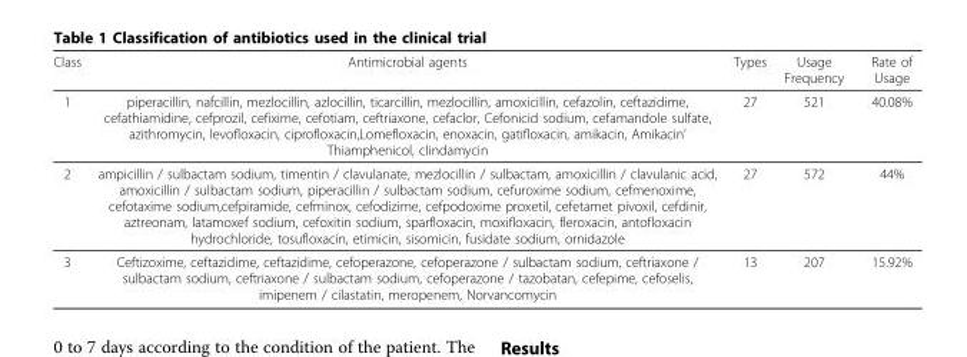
<table><thead><tr><td>Class</td><td>Antimicrobial agents</td><td>Types</td><td>Usage Frequency</td><td>Rate of Usage</td></tr></thead><tbody><tr><td>1</td><td>piperacillin, nafcillin, mezlocillin, azlocillin, ticarcillin, mezlocillin, amoxicillin, cefazolin, ceftazidime, cefathiamidine, cefprozil, cefixime, cefotiam, ceftriaxone, cefaclor, Cefonicid sodium, cefamandole sulfate, azithromycin, levofloxacin, ciprofloxacin,Lomefloxacin, enoxacin, gatifloxacin, amikacin, Amikacin’ Thiamphenicol, clindamycin</td><td>27</td><td>521</td><td>40.08%</td></tr><tr><td>2</td><td>ampicillin / sulbactam sodium, timentin / clavulanate, mezlocillin / sulbactam, amoxicillin / clavulanic acid, amoxicillin / sulbactam sodium, piperacillin / sulbactam sodium, cefuroxime sodium, cefmenoxime, cefotaxime sodium,cefpiramide, cefminox, cefodizime, cefpodoxime proxetil, cefetamet pivoxil, cefdinir, aztreonam, latamoxef sodium, cefoxitin sodium, sparfloxacin, moxifloxacin, fleroxacin, antofloxacin hydrochloride, tosufloxacin, etimicin, sisomicin, fusidate sodium, ornidazole</td><td>27</td><td>572</td><td>44%</td></tr><tr><td>3</td><td>Ceftizoxime, ceftazidime, ceftazidime, cefoperazone, cefoperazone / sulbactam sodium, ceftriaxone / sulbactam sodium, ceftriaxone / sulbactam sodium, cefoperazone / tazobatan, cefepime, cefoselis, imipenem / cilastatin, meropenem, Norvancomycin</td><td>13</td><td>207</td><td>15.92%</td></tr></tbody></table>